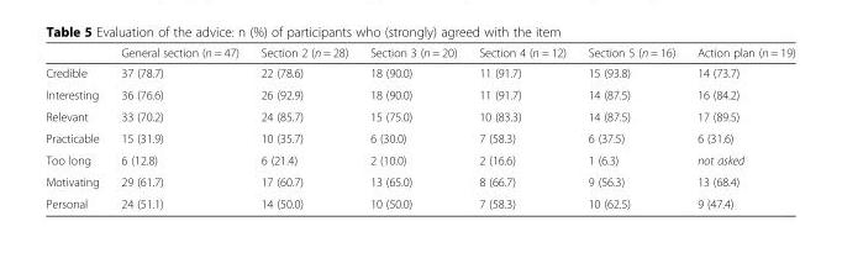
<table><thead><tr><td></td><td>General section (n = 47)</td><td>Section 2 (n = 28)</td><td>Section 3 (n = 20)</td><td>Section 4 (n = 12)</td><td>Section 5 (n = 16)</td><td>Action plan (n = 19)</td></tr></thead><tbody><tr><td>Credible</td><td>37 (78.7)</td><td>22 (78.6)</td><td>18 (90.0)</td><td>11 (91.7)</td><td>15 (93.8)</td><td>14 (73.7)</td></tr><tr><td>Interesting</td><td>36 (76.6)</td><td>26 (92.9)</td><td>18 (90.0)</td><td>11 (91.7)</td><td>14 (87.5)</td><td>16 (84.2)</td></tr><tr><td>Relevant</td><td>33 (70.2)</td><td>24 (85.7)</td><td>15 (75.0)</td><td>10 (83.3)</td><td>14 (87.5)</td><td>17 (89.5)</td></tr><tr><td>Practicable</td><td>15 (31.9)</td><td>10 (35.7)</td><td>6 (30.0)</td><td>7 (58.3)</td><td>6 (37.5)</td><td>6 (31.6)</td></tr><tr><td>Too long</td><td>6 (12.8)</td><td>6 (21.4)</td><td>2 (10.0)</td><td>2 (16.6)</td><td>1 (6.3)</td><td>not asked</td></tr><tr><td>Motivating</td><td>29 (61.7)</td><td>17 (60.7)</td><td>13 (65.0)</td><td>8 (66.7)</td><td>9 (56.3)</td><td>13 (68.4)</td></tr><tr><td>Personal</td><td>24 (51.1)</td><td>14 (50.0)</td><td>10 (50.0)</td><td>7 (58.3)</td><td>10 (62.5)</td><td>9 (47.4)</td></tr></tbody></table>